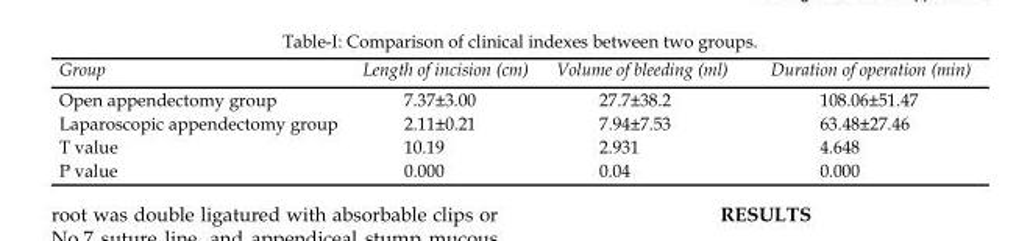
<table><thead><tr><td>Group</td><td>Length of incision (cm)</td><td>Volume of bleeding (ml)</td><td>Duration of operation (min)</td></tr></thead><tbody><tr><td>Open appendectomy group</td><td>7.37±3.00</td><td>27.7±38.2</td><td>108.06±51.47</td></tr><tr><td>Laparoscopic appendectomy group</td><td>2.11±0.21</td><td>7.94±7.53</td><td>63.48±27.46</td></tr><tr><td>T value</td><td>10.19</td><td>2.931</td><td>4.648</td></tr><tr><td>P value</td><td>0.000</td><td>0.04</td><td>0.000</td></tr></tbody></table>